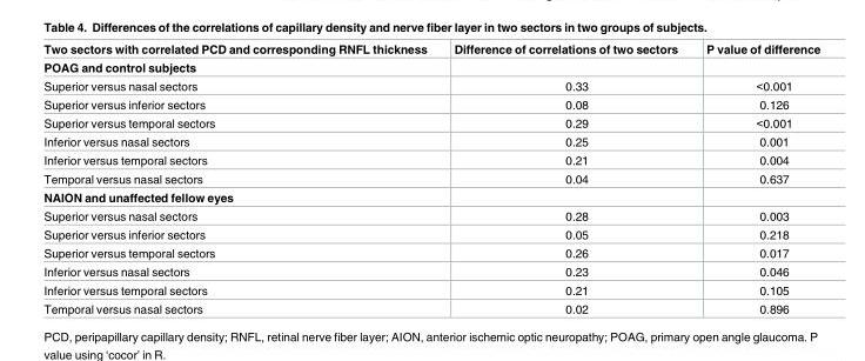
<table><thead><tr><td>Two sectors with correlated PCD and corresponding RNFL thickness</td><td>Difference of correlations of two sectors</td><td>P value of difference</td></tr></thead><tbody><tr><td colspan="3">POAG and control subjects</td></tr><tr><td>Superior versus nasal sectors</td><td>0.33</td><td>&lt;0.001</td></tr><tr><td>Superior versus inferior sectors</td><td>0.08</td><td>0.126</td></tr><tr><td>Superior versus temporal sectors</td><td>0.29</td><td>&lt;0.001</td></tr><tr><td>Inferior versus nasal sectors</td><td>0.25</td><td>0.001</td></tr><tr><td>Inferior versus temporal sectors</td><td>0.21</td><td>0.004</td></tr><tr><td>Temporal versus nasal sectors</td><td>0.04</td><td>0.637</td></tr><tr><td colspan="3">NAION and unaffected fellow eyes</td></tr><tr><td>Superior versus nasal sectors</td><td>0.28</td><td>0.003</td></tr><tr><td>Superior versus inferior sectors</td><td>0.05</td><td>0.218</td></tr><tr><td>Superior versus temporal sectors</td><td>0.26</td><td>0.017</td></tr><tr><td>Inferior versus nasal sectors</td><td>0.23</td><td>0.046</td></tr><tr><td>Inferior versus temporal sectors</td><td>0.21</td><td>0.105</td></tr><tr><td>Temporal versus nasal sectors</td><td>0.02</td><td>0.896</td></tr></tbody></table>